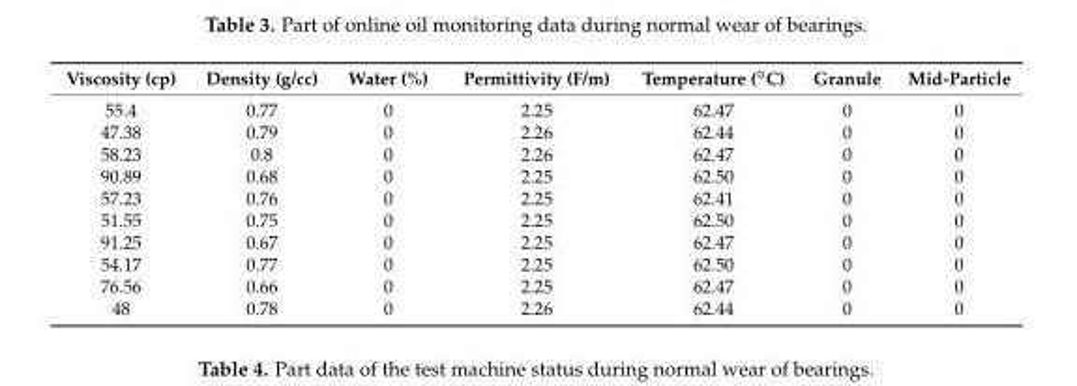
<table><thead><tr><td>Viscosity (cp)</td><td>Density (g/cc)</td><td>Water (%)</td><td>Permittivity (F/m)</td><td>Temperature (◦C)</td><td>Granule</td><td>Mid-Particle</td></tr></thead><tbody><tr><td>55.4</td><td>0.77</td><td>0</td><td>2.25</td><td>62.47</td><td>0</td><td>0</td></tr><tr><td>47.38</td><td>0.79</td><td>0</td><td>2.26</td><td>62.44</td><td>0</td><td>0</td></tr><tr><td>58.23</td><td>0.8</td><td>0</td><td>2.26</td><td>62.47</td><td>0</td><td>0</td></tr><tr><td>90.89</td><td>0.68</td><td>0</td><td>2.25</td><td>62.50</td><td>0</td><td>0</td></tr><tr><td>57.23</td><td>0.76</td><td>0</td><td>2.25</td><td>62.41</td><td>0</td><td>0</td></tr><tr><td>51.55</td><td>0.75</td><td>0</td><td>2.25</td><td>62.50</td><td>0</td><td>0</td></tr><tr><td>91.25</td><td>0.67</td><td>0</td><td>2.25</td><td>62.47</td><td>0</td><td>0</td></tr><tr><td>54.17</td><td>0.77</td><td>0</td><td>2.25</td><td>62.50</td><td>0</td><td>0</td></tr><tr><td>76.56</td><td>0.66</td><td>0</td><td>2.25</td><td>62.47</td><td>0</td><td>0</td></tr><tr><td>48</td><td>0.78</td><td>0</td><td>2.26</td><td>62.44</td><td>0</td><td>0</td></tr></tbody></table>